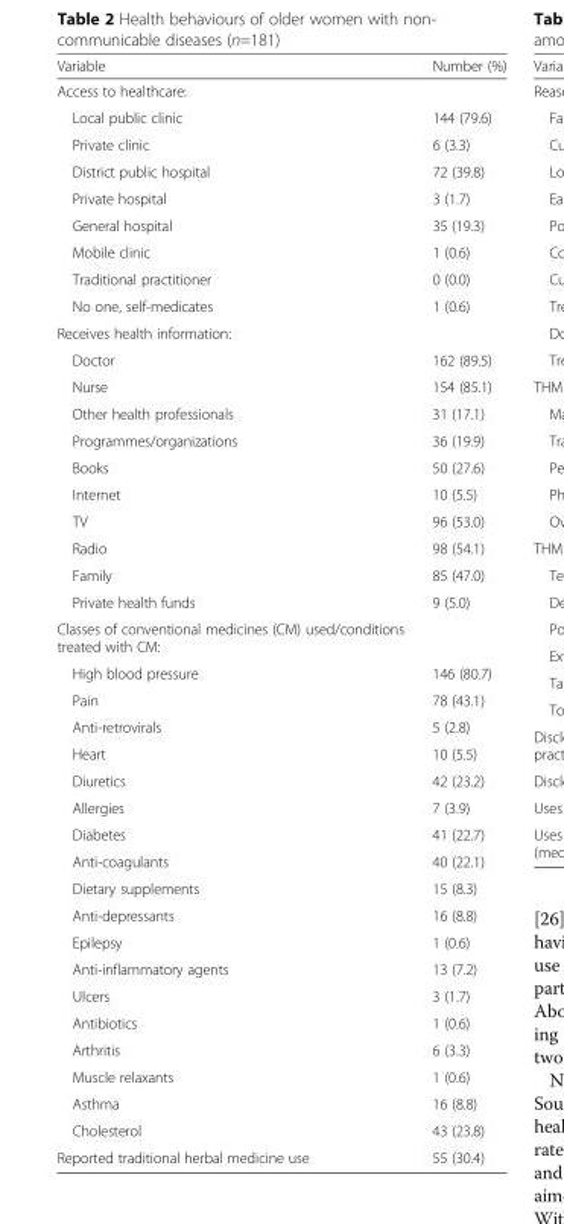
<table><thead><tr><td>Variable</td><td>Number (%)</td></tr></thead><tbody><tr><td colspan="2">Access to healthcare:</td></tr><tr><td>Local public clinic</td><td>144 (79.6)</td></tr><tr><td>Private clinic</td><td>6 (3.3)</td></tr><tr><td>District public hospital</td><td>72 (39.8)</td></tr><tr><td>Private hospital</td><td>3 (1.7)</td></tr><tr><td>General hospital</td><td>35 (19.3)</td></tr><tr><td>Mobile clinic</td><td>1 (0.6)</td></tr><tr><td>Traditional practitioner</td><td>0 (0.0)</td></tr><tr><td>No one, self-medicates</td><td>1 (0.6)</td></tr><tr><td colspan="2">Receives health information:</td></tr><tr><td>Doctor</td><td>162 (89.5)</td></tr><tr><td>Nurse</td><td>154 (85.1)</td></tr><tr><td>Other health professionals</td><td>31 (17.1)</td></tr><tr><td>Programmes/organizations</td><td>36 (19.9)</td></tr><tr><td>Books</td><td>50 (27.6)</td></tr><tr><td>Internet</td><td>10 (5.5)</td></tr><tr><td>TV</td><td>96 (53.0)</td></tr><tr><td>Radio</td><td>98 (54.1)</td></tr><tr><td>Family</td><td>85 (47.0)</td></tr><tr><td>Private health funds</td><td>9 (5.0)</td></tr><tr><td colspan="2">Classes of conventional medicines (CM) used/conditions treated with CM:</td></tr><tr><td>High blood pressure</td><td>146 (80.7)</td></tr><tr><td>Pain</td><td>78 (43.1)</td></tr><tr><td>Anti-retrovirals</td><td>5 (2.8)</td></tr><tr><td>Heart</td><td>10 (5.5)</td></tr><tr><td>Diuretics</td><td>42 (23.2)</td></tr><tr><td>Allergies</td><td>7 (3.9)</td></tr><tr><td>Diabetes</td><td>41 (22.7)</td></tr><tr><td>Anti-coagulants</td><td>40 (22.1)</td></tr><tr><td>Dietary supplements</td><td>15 (8.3)</td></tr><tr><td>Anti-depressants</td><td>16 (8.8)</td></tr><tr><td>Epilepsy</td><td>1 (0.6)</td></tr><tr><td>Anti-inflammatory agents</td><td>13 (7.2)</td></tr><tr><td>Ulcers</td><td>3 (1.7)</td></tr><tr><td>Antibiotics</td><td>1 (0.6)</td></tr><tr><td>Arthritis</td><td>6 (3.3)</td></tr><tr><td>Muscle relaxants</td><td>1 (0.6)</td></tr><tr><td>Asthma</td><td>16 (8.8)</td></tr><tr><td>Cholesterol</td><td>43 (23.8)</td></tr><tr><td>Reported traditional herbal medicine use</td><td>55 (30.4)</td></tr></tbody></table>